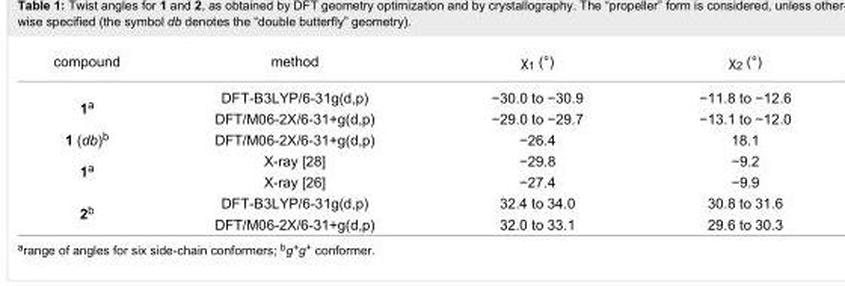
<table><tbody><tr><td>compound</td><td>method</td><td>χ<sub>1</sub> (°)</td><td>χ<sub>2</sub> (°)</td></tr><tr><td rowspan="2">1<sup>a</sup></td><td>DFT-B3LYP/6-31g(d,p)</td><td>−30.0 to −30.9</td><td>−11.8 to −12.6</td></tr><tr><td>DFT/M06-2X/6-31+g(d,p)</td><td>−29.0 to −29.7</td><td>−13.1 to −12.0</td></tr><tr><td>1 (db)<sup>b</sup></td><td>DFT/M06-2X/6-31+g(d,p)</td><td>−26.4</td><td>18.1</td></tr><tr><td rowspan="2">1<sup>a</sup></td><td>X-ray [28]</td><td>−29.8</td><td>−9.2</td></tr><tr><td>X-ray [26]</td><td>−27.4</td><td>−9.9</td></tr><tr><td rowspan="2">2<sup>b</sup></td><td>DFT-B3LYP/6-31g(d,p)</td><td>32.4 to 34.0</td><td>30.8 to 31.6</td></tr><tr><td>DFT/M06-2X/6-31+g(d,p)</td><td>32.0 to 33.1</td><td>29.6 to 30.3</td></tr></tbody></table>